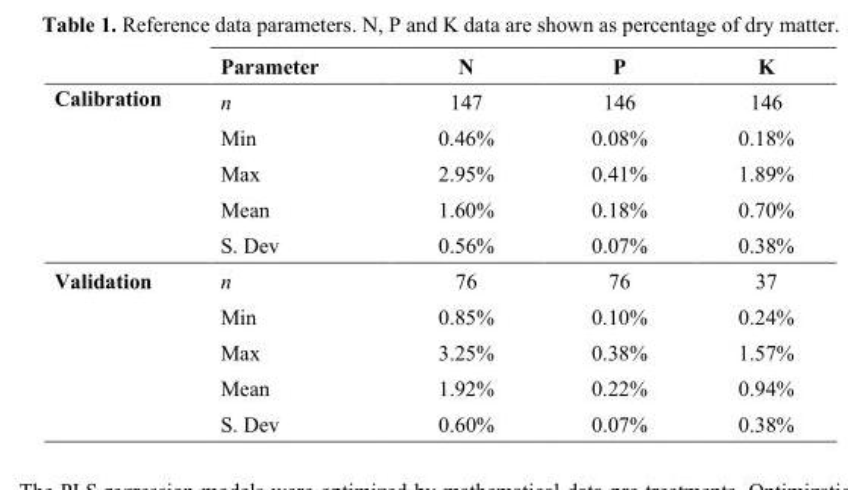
<table><thead><tr><td></td><td>Parameter</td><td>N</td><td>P</td><td>K</td></tr></thead><tbody><tr><td rowspan="5">Calibration</td><td>n</td><td>147</td><td>146</td><td>146</td></tr><tr><td>Min</td><td>0.46%</td><td>0.08%</td><td>0.18%</td></tr><tr><td>Max</td><td>2.95%</td><td>0.41%</td><td>1.89%</td></tr><tr><td>Mean</td><td>1.60%</td><td>0.18%</td><td>0.70%</td></tr><tr><td>S. Dev</td><td>0.56%</td><td>0.07%</td><td>0.38%</td></tr><tr><td rowspan="5">Validation</td><td>n</td><td>76</td><td>76</td><td>37</td></tr><tr><td>Min</td><td>0.85%</td><td>0.10%</td><td>0.24%</td></tr><tr><td>Max</td><td>3.25%</td><td>0.38%</td><td>1.57%</td></tr><tr><td>Mean</td><td>1.92%</td><td>0.22%</td><td>0.94%</td></tr><tr><td>S. Dev</td><td>0.60%</td><td>0.07%</td><td>0.38%</td></tr></tbody></table>